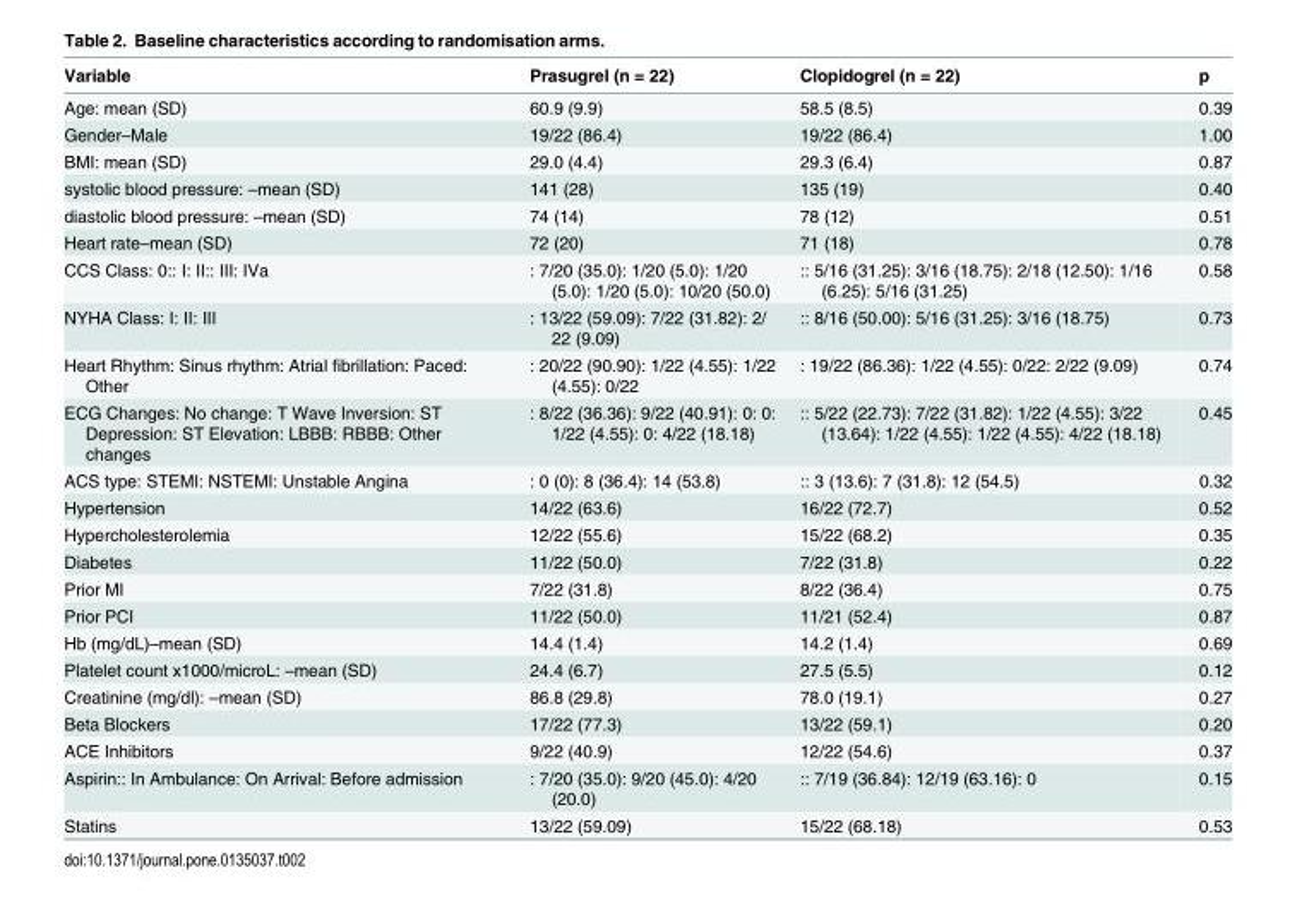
<table><thead><tr><td>Variable</td><td>Prasugrel (n = 22)</td><td>Clopidogrel (n = 22)</td><td>p</td></tr></thead><tbody><tr><td>Age: mean (SD)</td><td>60.9 (9.9)</td><td>58.5 (8.5)</td><td>0.39</td></tr><tr><td>Gender–Male</td><td>19/22 (86.4)</td><td>19/22 (86.4)</td><td>1.00</td></tr><tr><td>BMI: mean (SD)</td><td>29.0 (4.4)</td><td>29.3 (6.4)</td><td>0.87</td></tr><tr><td>systolic blood pressure: –mean (SD)</td><td>141 (28)</td><td>135 (19)</td><td>0.40</td></tr><tr><td>diastolic blood pressure: –mean (SD)</td><td>74 (14)</td><td>78 (12)</td><td>0.51</td></tr><tr><td>Heart rate–mean (SD)</td><td>72 (20)</td><td>71 (18)</td><td>0.78</td></tr><tr><td>CCS Class: 0:: I: II:: III: IVa</td><td>: 7/20 (35.0): 1/20 (5.0): 1/20 (5.0): 1/20 (5.0): 10/20 (50.0)</td><td>:: 5/16 (31.25): 3/16 (18.75): 2/18 (12.50): 1/16 (6.25): 5/16 (31.25)</td><td>0.58</td></tr><tr><td>NYHA Class: I: II: III</td><td>: 13/22 (59.09): 7/22 (31.82): 2/ 22 (9.09)</td><td>:: 8/16 (50.00): 5/16 (31.25): 3/16 (18.75)</td><td>0.73</td></tr><tr><td>Heart Rhythm: Sinus rhythm: Atrial fibrillation: Paced: Other</td><td>: 20/22 (90.90): 1/22 (4.55): 1/22 (4.55): 0/22</td><td>: 19/22 (86.36): 1/22 (4.55): 0/22: 2/22 (9.09)</td><td>0.74</td></tr><tr><td>ECG Changes: No change: T Wave Inversion: ST Depression: ST Elevation: LBBB: RBBB: Other changes</td><td>: 8/22 (36.36): 9/22 (40.91): 0: 0: 1/22 (4.55): 0: 4/22 (18.18)</td><td>:: 5/22 (22.73): 7/22 (31.82): 1/22 (4.55): 3/22 (13.64): 1/22 (4.55): 1/22 (4.55): 4/22 (18.18)</td><td>0.45</td></tr><tr><td>ACS type: STEMI: NSTEMI: Unstable Angina</td><td>: 0 (0): 8 (36.4): 14 (53.8)</td><td>:: 3 (13.6): 7 (31.8): 12 (54.5)</td><td>0.32</td></tr><tr><td>Hypertension</td><td>14/22 (63.6)</td><td>16/22 (72.7)</td><td>0.52</td></tr><tr><td>Hypercholesterolemia</td><td>12/22 (55.6)</td><td>15/22 (68.2)</td><td>0.35</td></tr><tr><td>Diabetes</td><td>11/22 (50.0)</td><td>7/22 (31.8)</td><td>0.22</td></tr><tr><td>Prior MI</td><td>7/22 (31.8)</td><td>8/22 (36.4)</td><td>0.75</td></tr><tr><td>Prior PCI</td><td>11/22 (50.0)</td><td>11/21 (52.4)</td><td>0.87</td></tr><tr><td>Hb (mg/dL)–mean (SD)</td><td>14.4 (1.4)</td><td>14.2 (1.4)</td><td>0.69</td></tr><tr><td>Platelet count x1000/microL: –mean (SD)</td><td>24.4 (6.7)</td><td>27.5 (5.5)</td><td>0.12</td></tr><tr><td>Creatinine (mg/dl): –mean (SD)</td><td>86.8 (29.8)</td><td>78.0 (19.1)</td><td>0.27</td></tr><tr><td>Beta Blockers</td><td>17/22 (77.3)</td><td>13/22 (59.1)</td><td>0.20</td></tr><tr><td>ACE Inhibitors</td><td>9/22 (40.9)</td><td>12/22 (54.6)</td><td>0.37</td></tr><tr><td>Aspirin:: In Ambulance: On Arrival: Before admission</td><td>: 7/20 (35.0): 9/20 (45.0): 4/20 (20.0)</td><td>:: 7/19 (36.84): 12/19 (63.16): 0</td><td>0.15</td></tr><tr><td>Statins</td><td>13/22 (59.09)</td><td>15/22 (68.18)</td><td>0.53</td></tr></tbody></table>